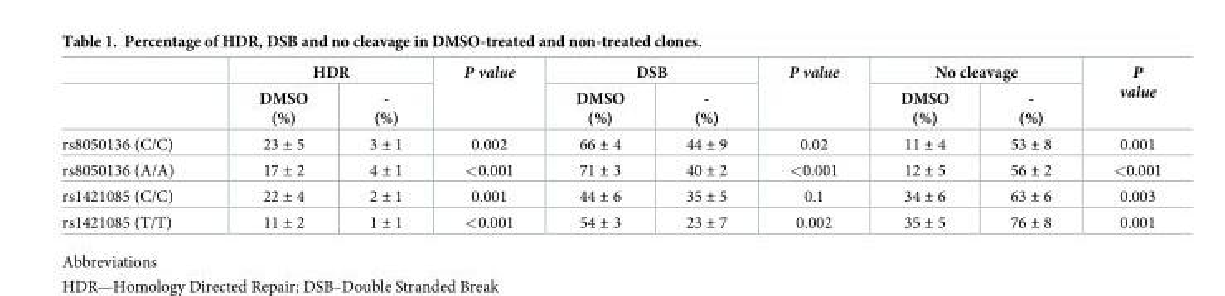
<table><thead><tr><td rowspan="2"></td><td colspan="2">HDR</td><td rowspan="2">P value</td><td colspan="2">DSB</td><td rowspan="2">P value</td><td colspan="2">No cleavage</td><td rowspan="2">P value</td></tr><tr><td>DMSO (%)</td><td>- (%)</td><td>DMSO (%)</td><td>- (%)</td><td>DMSO (%)</td><td>- (%)</td></tr></thead><tbody><tr><td>rs8050136 (C/C)</td><td>23 ± 5</td><td>3 ± 1</td><td>0.002</td><td>66 ± 4</td><td>44 ± 9</td><td>0.02</td><td>11 ± 4</td><td>53 ± 8</td><td>0.001</td></tr><tr><td>rs8050136 (A/A)</td><td>17 ± 2</td><td>4 ± 1</td><td>&lt;0.001</td><td>71 ± 3</td><td>40 ± 2</td><td>&lt;0.001</td><td>12 ± 5</td><td>56 ± 2</td><td>&lt;0.001</td></tr><tr><td>rs1421085 (C/C)</td><td>22 ± 4</td><td>2 ± 1</td><td>0.001</td><td>44 ± 6</td><td>35 ± 5</td><td>0.1</td><td>34 ± 6</td><td>63 ± 6</td><td>0.003</td></tr><tr><td>rs1421085 (T/T)</td><td>11 ± 2</td><td>1 ± 1</td><td>&lt;0.001</td><td>54 ± 3</td><td>23 ± 7</td><td>0.002</td><td>35 ± 5</td><td>76 ± 8</td><td>0.001</td></tr></tbody></table>